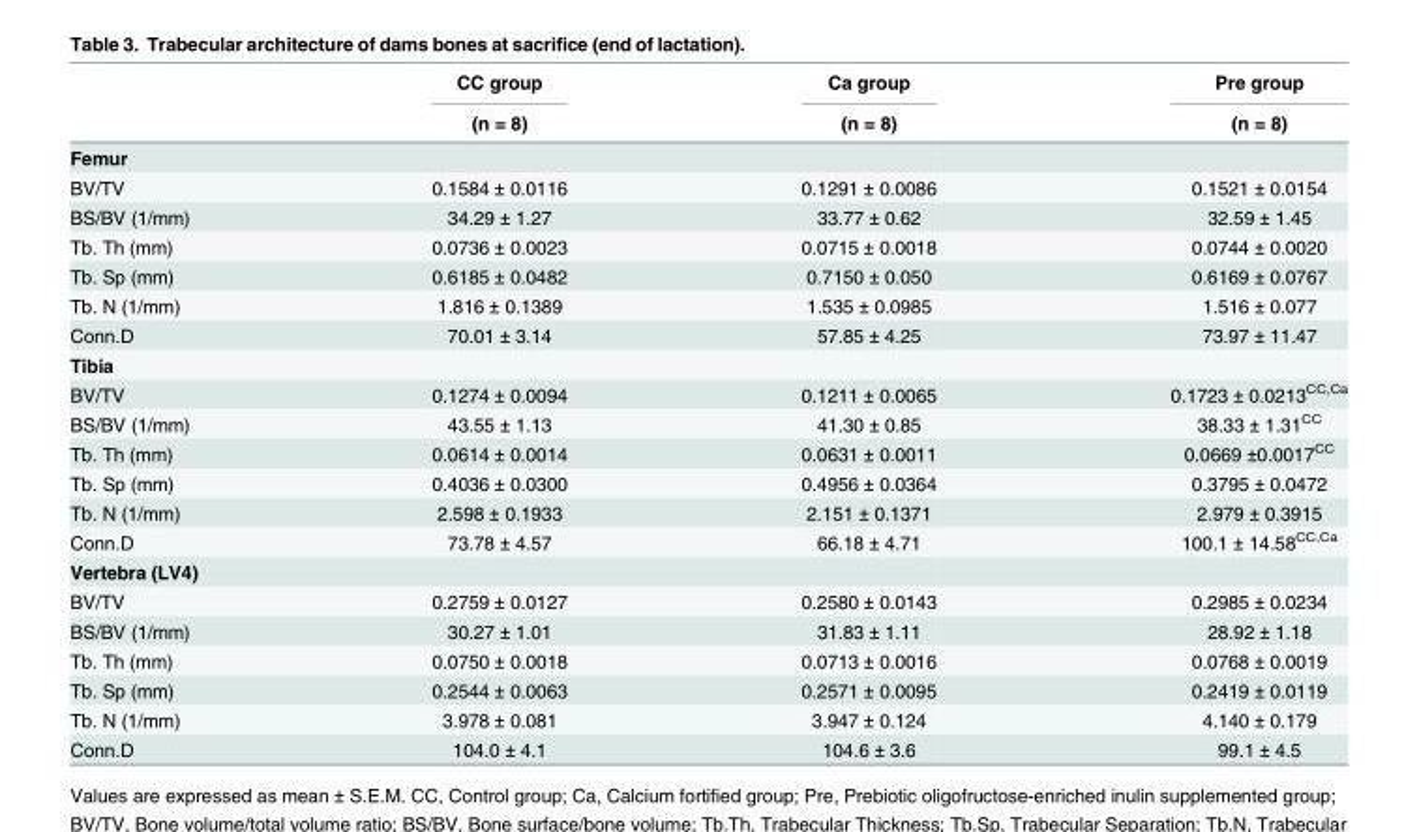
<table><thead><tr><td rowspan="2"></td><td rowspan="2">CC group (n = 8)</td><td rowspan="2">Ca group (n = 8)</td><td rowspan="2">Pre group (n = 8)</td></tr><tr></tr></thead><tbody><tr><td colspan="4">Femur</td></tr><tr><td>BV/TV</td><td>0.1584 ± 0.0116</td><td>0.1291 ± 0.0086</td><td>0.1521 ± 0.0154</td></tr><tr><td>BS/BV (1/mm)</td><td>34.29 ± 1.27</td><td>33.77 ± 0.62</td><td>32.59 ± 1.45</td></tr><tr><td>Tb. Th (mm)</td><td>0.0736 ± 0.0023</td><td>0.0715 ± 0.0018</td><td>0.0744 ± 0.0020</td></tr><tr><td>Tb. Sp (mm)</td><td>0.6185 ± 0.0482</td><td>0.7150 ± 0.050</td><td>0.6169 ± 0.0767</td></tr><tr><td>Tb. N (1/mm)</td><td>1.816 ± 0.1389</td><td>1.535 ± 0.0985</td><td>1.516 ± 0.077</td></tr><tr><td>Conn.D</td><td>70.01 ± 3.14</td><td>57.85 ± 4.25</td><td>73.97 ± 11.47</td></tr><tr><td colspan="4">Tibia</td></tr><tr><td>BV/TV</td><td>0.1274 ± 0.0094</td><td>0.1211 ± 0.0065</td><td>0.1723 ± 0.0213<sup>CC,Ca</sup></td></tr><tr><td>BS/BV (1/mm)</td><td>43.55 ± 1.13</td><td>41.30 ± 0.85</td><td>38.33 ± 1.31<sup>CC</sup></td></tr><tr><td>Tb. Th (mm)</td><td>0.0614 ± 0.0014</td><td>0.0631 ± 0.0011</td><td>0.0669 ±0.0017<sup>CC</sup></td></tr><tr><td>Tb. Sp (mm)</td><td>0.4036 ± 0.0300</td><td>0.4956 ± 0.0364</td><td>0.3795 ± 0.0472</td></tr><tr><td>Tb. N (1/mm)</td><td>2.598 ± 0.1933</td><td>2.151 ± 0.1371</td><td>2.979 ± 0.3915</td></tr><tr><td>Conn.D</td><td>73.78 ± 4.57</td><td>66.18 ± 4.71</td><td>100.1 ± 14.58<sup>CC,Ca</sup></td></tr><tr><td colspan="4">Vertebra (LV4)</td></tr><tr><td>BV/TV</td><td>0.2759 ± 0.0127</td><td>0.2580 ± 0.0143</td><td>0.2985 ± 0.0234</td></tr><tr><td>BS/BV (1/mm)</td><td>30.27 ± 1.01</td><td>31.83 ± 1.11</td><td>28.92 ± 1.18</td></tr><tr><td>Tb. Th (mm)</td><td>0.0750 ± 0.0018</td><td>0.0713 ± 0.0016</td><td>0.0768 ± 0.0019</td></tr><tr><td>Tb. Sp (mm)</td><td>0.2544 ± 0.0063</td><td>0.2571 ± 0.0095</td><td>0.2419 ± 0.0119</td></tr><tr><td>Tb. N (1/mm)</td><td>3.978 ± 0.081</td><td>3.947 ± 0.124</td><td>4.140 ± 0.179</td></tr><tr><td>Conn.D</td><td>104.0 ± 4.1</td><td>104.6 ± 3.6</td><td>99.1 ± 4.5</td></tr></tbody></table>